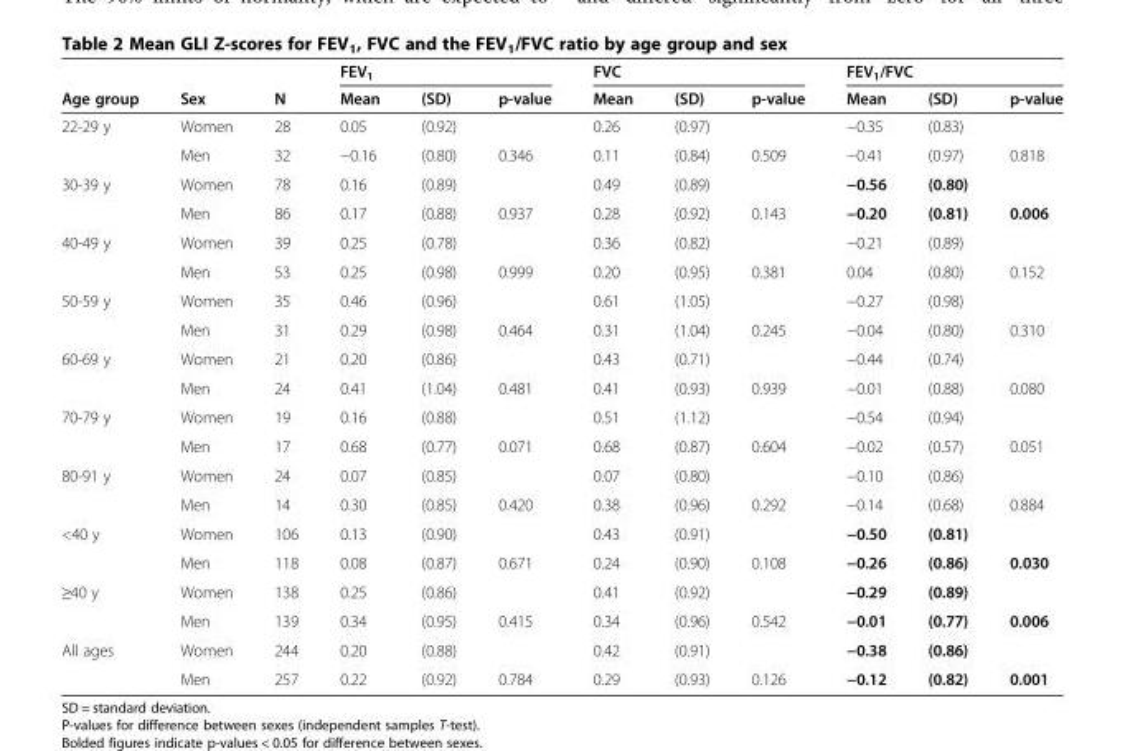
<table><thead><tr><td rowspan="2">Age group</td><td rowspan="2">Sex</td><td rowspan="2">N</td><td colspan="3">FEV<sub>1</sub></td><td colspan="3">FVC</td><td colspan="3">FEV<sub>1</sub>/FVC</td></tr><tr><td>Mean</td><td>(SD)</td><td>p-value</td><td>Mean</td><td>(SD)</td><td>p-value</td><td>Mean</td><td>(SD)</td><td>p-value</td></tr></thead><tbody><tr><td rowspan="2">22-29 y</td><td>Women</td><td>28</td><td>0.05</td><td>(0.92)</td><td></td><td>0.26</td><td>(0.97)</td><td></td><td>−0.35</td><td>(0.83)</td><td></td></tr><tr><td>Men</td><td>32</td><td>−0.16</td><td>(0.80)</td><td>0.346</td><td>0.11</td><td>(0.84)</td><td>0.509</td><td>−0.41</td><td>(0.97)</td><td>0.818</td></tr><tr><td rowspan="2">30-39 y</td><td>Women</td><td>78</td><td>0.16</td><td>(0.89)</td><td></td><td>0.49</td><td>(0.89)</td><td></td><td>−0.56</td><td>(0.80)</td><td></td></tr><tr><td>Men</td><td>86</td><td>0.17</td><td>(0.88)</td><td>0.937</td><td>0.28</td><td>(0.92)</td><td>0.143</td><td>−0.20</td><td>(0.81)</td><td>0.006</td></tr><tr><td rowspan="2">40-49 y</td><td>Women</td><td>39</td><td>0.25</td><td>(0.78)</td><td></td><td>0.36</td><td>(0.82)</td><td></td><td>−0.21</td><td>(0.89)</td><td></td></tr><tr><td>Men</td><td>53</td><td>0.25</td><td>(0.98)</td><td>0.999</td><td>0.20</td><td>(0.95)</td><td>0.381</td><td>0.04</td><td>(0.80)</td><td>0.152</td></tr><tr><td rowspan="2">50-59 y</td><td>Women</td><td>35</td><td>0.46</td><td>(0.96)</td><td></td><td>0.61</td><td>(1.05)</td><td></td><td>−0.27</td><td>(0.98)</td><td></td></tr><tr><td>Men</td><td>31</td><td>0.29</td><td>(0.98)</td><td>0.464</td><td>0.31</td><td>(1.04)</td><td>0.245</td><td>−0.04</td><td>(0.80)</td><td>0.310</td></tr><tr><td rowspan="2">60-69 y</td><td>Women</td><td>21</td><td>0.20</td><td>(0.86)</td><td></td><td>0.43</td><td>(0.71)</td><td></td><td>−0.44</td><td>(0.74)</td><td></td></tr><tr><td>Men</td><td>24</td><td>0.41</td><td>(1.04)</td><td>0.481</td><td>0.41</td><td>(0.93)</td><td>0.939</td><td>−0.01</td><td>(0.88)</td><td>0.080</td></tr><tr><td rowspan="2">70-79 y</td><td>Women</td><td>19</td><td>0.16</td><td>(0.88)</td><td></td><td>0.51</td><td>(1.12)</td><td></td><td>−0.54</td><td>(0.94)</td><td></td></tr><tr><td>Men</td><td>17</td><td>0.68</td><td>(0.77)</td><td>0.071</td><td>0.68</td><td>(0.87)</td><td>0.604</td><td>−0.02</td><td>(0.57)</td><td>0.051</td></tr><tr><td rowspan="2">80-91 y</td><td>Women</td><td>24</td><td>0.07</td><td>(0.85)</td><td></td><td>0.07</td><td>(0.80)</td><td></td><td>−0.10</td><td>(0.86)</td><td></td></tr><tr><td>Men</td><td>14</td><td>0.30</td><td>(0.85)</td><td>0.420</td><td>0.38</td><td>(0.96)</td><td>0.292</td><td>−0.14</td><td>(0.68)</td><td>0.884</td></tr><tr><td rowspan="2">&lt;40 y</td><td>Women</td><td>106</td><td>0.13</td><td>(0.90)</td><td></td><td>0.43</td><td>(0.91)</td><td></td><td>−0.50</td><td>(0.81)</td><td></td></tr><tr><td>Men</td><td>118</td><td>0.08</td><td>(0.87)</td><td>0.671</td><td>0.24</td><td>(0.90)</td><td>0.108</td><td>−0.26</td><td>(0.86)</td><td>0.030</td></tr><tr><td rowspan="2">≥40 y</td><td>Women</td><td>138</td><td>0.25</td><td>(0.86)</td><td></td><td>0.41</td><td>(0.92)</td><td></td><td>−0.29</td><td>(0.89)</td><td></td></tr><tr><td>Men</td><td>139</td><td>0.34</td><td>(0.95)</td><td>0.415</td><td>0.34</td><td>(0.96)</td><td>0.542</td><td>−0.01</td><td>(0.77)</td><td>0.006</td></tr><tr><td rowspan="2">All ages</td><td>Women</td><td>244</td><td>0.20</td><td>(0.88)</td><td></td><td>0.42</td><td>(0.91)</td><td></td><td>−0.38</td><td>(0.86)</td><td></td></tr><tr><td>Men</td><td>257</td><td>0.22</td><td>(0.92)</td><td>0.784</td><td>0.29</td><td>(0.93)</td><td>0.126</td><td>−0.12</td><td>(0.82)</td><td>0.001</td></tr></tbody></table>